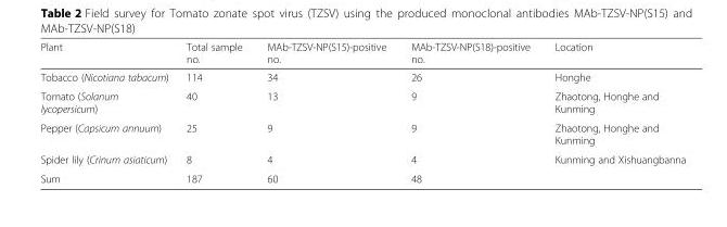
<table><thead><tr><td>Plant</td><td>Total sample no.</td><td>MAb-TZSV-NP(S15)-positive no.</td><td>MAb-TZSV-NP(S18)-positive no.</td><td>Location</td></tr></thead><tbody><tr><td>Tobacco (Nicotiana tabacum)</td><td>114</td><td>34</td><td>26</td><td>Honghe</td></tr><tr><td>Tomato (Solanum lycopersicum)</td><td>40</td><td>13</td><td>9</td><td>Zhaotong, Honghe and Kunming</td></tr><tr><td>Pepper (Capsicum annuum)</td><td>25</td><td>9</td><td>9</td><td>Zhaotong, Honghe and Kunming</td></tr><tr><td>Spider lily (Crinum asiaticum)</td><td>8</td><td>4</td><td>4</td><td>Kunming and Xishuangbanna</td></tr><tr><td>Sum</td><td>187</td><td>60</td><td>48</td><td></td></tr></tbody></table>